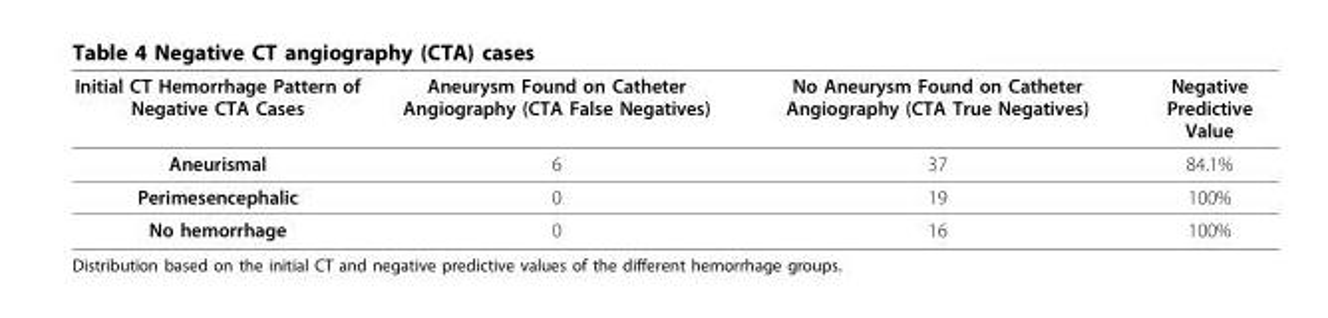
<table><thead><tr><td>Initial CT Hemorrhage Pattern of Negative CTA Cases</td><td>Aneurysm Found on Catheter Angiography (CTA False Negatives)</td><td>No Aneurysm Found on Catheter Angiography (CTA True Negatives)</td><td>Negative Predictive Value</td></tr></thead><tbody><tr><td>Aneurismal</td><td>6</td><td>37</td><td>84.1%</td></tr><tr><td>Perimesencephalic</td><td>0</td><td>19</td><td>100%</td></tr><tr><td>No hemorrhage</td><td>0</td><td>16</td><td>100%</td></tr></tbody></table>